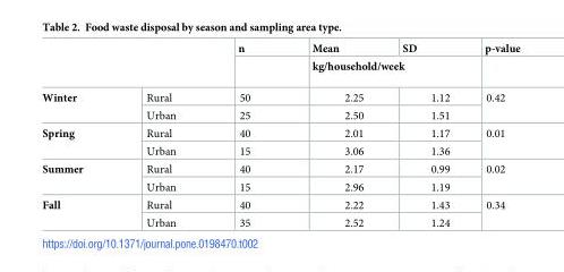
<table><thead><tr><td rowspan="2"></td><td rowspan="2"></td><td rowspan="2">n</td><td>Mean</td><td>SD</td><td rowspan="2">p-value</td></tr><tr><td colspan="2">kg/household/week</td></tr></thead><tbody><tr><td rowspan="2">Winter</td><td>Rural</td><td>50</td><td>2.25</td><td>1.12</td><td rowspan="2">0.42</td></tr><tr><td>Urban</td><td>25</td><td>2.50</td><td>1.51</td></tr><tr><td rowspan="2">Spring</td><td>Rural</td><td>40</td><td>2.01</td><td>1.17</td><td rowspan="2">0.01</td></tr><tr><td>Urban</td><td>15</td><td>3.06</td><td>1.36</td></tr><tr><td rowspan="2">Summer</td><td>Rural</td><td>40</td><td>2.17</td><td>0.99</td><td rowspan="2">0.02</td></tr><tr><td>Urban</td><td>15</td><td>2.96</td><td>1.19</td></tr><tr><td rowspan="2">Fall</td><td>Rural</td><td>40</td><td>2.22</td><td>1.43</td><td rowspan="2">0.34</td></tr><tr><td>Urban</td><td>35</td><td>2.52</td><td>1.24</td></tr></tbody></table>